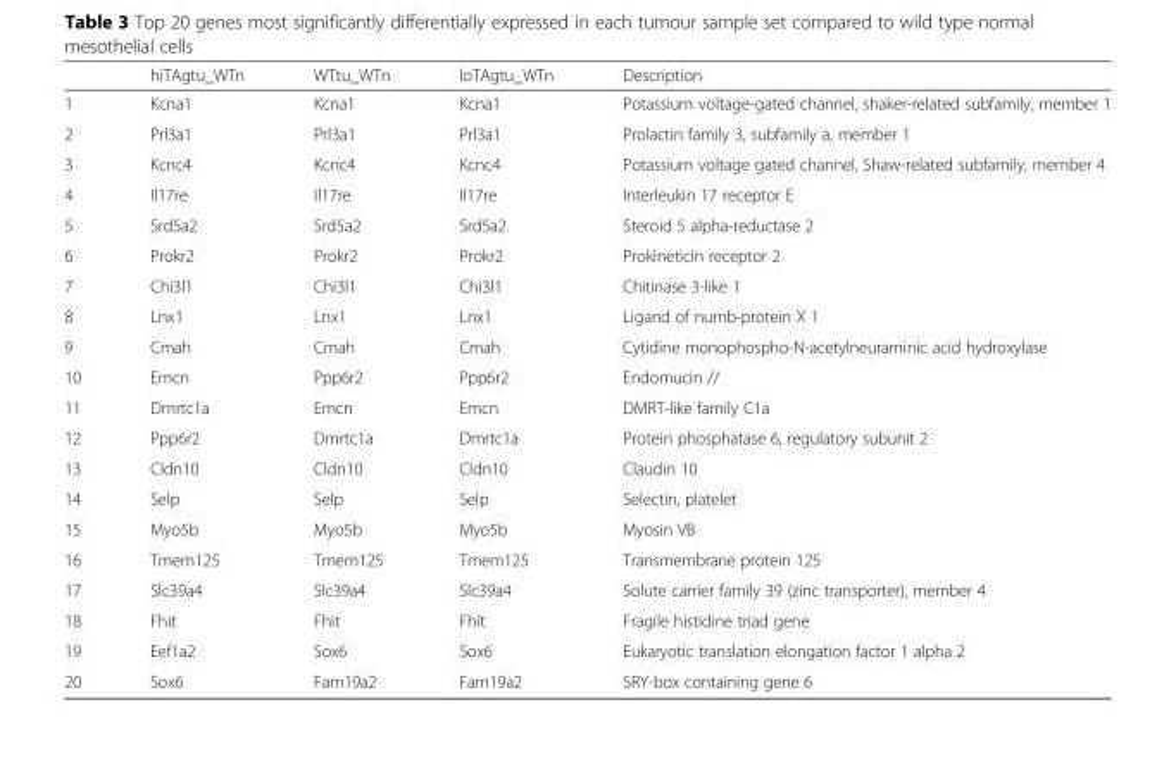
<table><thead><tr><td></td><td>hiTAgtu_WTn</td><td>WTtu_WTn</td><td>loTAgtu_WTn</td><td>Description</td></tr></thead><tbody><tr><td>1</td><td>Kcna1</td><td>Kcna1</td><td>Kcna1</td><td>Potassium voltage-gated channel, shaker-related subfamily, member 1</td></tr><tr><td>2</td><td>Prl3a1</td><td>Prl3a1</td><td>Prl3a1</td><td>Prolactin family 3, subfamily a, member 1</td></tr><tr><td>3</td><td>Kcnc4</td><td>Kcnc4</td><td>Kcnc4</td><td>Potassium voltage gated channel, Shaw-related subfamily, member 4</td></tr><tr><td>4</td><td>Il17re</td><td>Il17re</td><td>Il17re</td><td>Interleukin 17 receptor E</td></tr><tr><td>5</td><td>Srd5a2</td><td>Srd5a2</td><td>Srd5a2</td><td>Steroid 5 alpha-reductase 2</td></tr><tr><td>6</td><td>Prokr2</td><td>Prokr2</td><td>Prokr2</td><td>Prokineticin receptor 2</td></tr><tr><td>7</td><td>Chi3l1</td><td>Chi3l1</td><td>Chi3l1</td><td>Chitinase 3-like 1</td></tr><tr><td>8</td><td>Lnx1</td><td>Lnx1</td><td>Lnx1</td><td>Ligand of numb-protein X 1</td></tr><tr><td>9</td><td>Cmah</td><td>Cmah</td><td>Cmah</td><td>Cytidine monophospho-N-acetylneuraminic acid hydroxylase</td></tr><tr><td>10</td><td>Emcn</td><td>Ppp6r2</td><td>Ppp6r2</td><td>Endomucin //</td></tr><tr><td>11</td><td>Dmrtc1a</td><td>Emcn</td><td>Emcn</td><td>DMRT-like family C1a</td></tr><tr><td>12</td><td>Ppp6r2</td><td>Dmrtc1a</td><td>Dmrtc1a</td><td>Protein phosphatase 6, regulatory subunit 2</td></tr><tr><td>13</td><td>Cldn10</td><td>Cldn10</td><td>Cldn10</td><td>Claudin 10</td></tr><tr><td>14</td><td>Selp</td><td>Selp</td><td>Selp</td><td>Selectin, platelet</td></tr><tr><td>15</td><td>Myo5b</td><td>Myo5b</td><td>Myo5b</td><td>Myosin VB</td></tr><tr><td>16</td><td>Tmem125</td><td>Tmem125</td><td>Tmem125</td><td>Transmembrane protein 125</td></tr><tr><td>17</td><td>Slc39a4</td><td>Slc39a4</td><td>Slc39a4</td><td>Solute carrier family 39 (zinc transporter), member 4</td></tr><tr><td>18</td><td>Fhit</td><td>Fhit</td><td>Fhit</td><td>Fragile histidine triad gene</td></tr><tr><td>19</td><td>Eef1a2</td><td>Sox6</td><td>Sox6</td><td>Eukaryotic translation elongation factor 1 alpha 2</td></tr><tr><td>20</td><td>Sox6</td><td>Fam19a2</td><td>Fam19a2</td><td>SRY-box containing gene 6</td></tr></tbody></table>